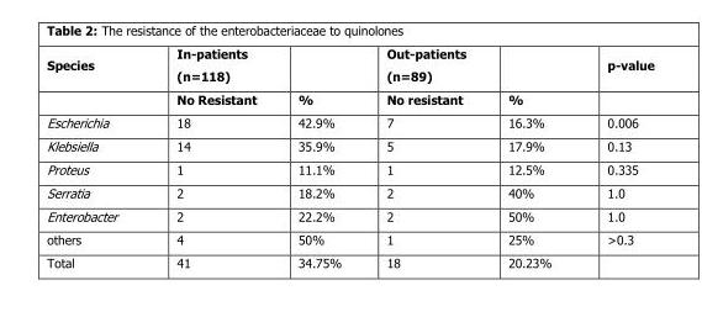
<table><thead><tr><td rowspan="2">Species</td><td rowspan="2">In-patients (n=118) No Resistant</td><td rowspan="2">%</td><td rowspan="2">Out-patients (n=89) No resistant</td><td rowspan="2">%</td><td rowspan="2">p-value</td></tr><tr></tr></thead><tbody><tr><td>Escherichia</td><td>18</td><td>42.9%</td><td>7</td><td>16.3%</td><td>0.006</td></tr><tr><td>Klebsiella</td><td>14</td><td>35.9%</td><td>5</td><td>17.9%</td><td>0.13</td></tr><tr><td>Proteus</td><td>1</td><td>11.1%</td><td>1</td><td>12.5%</td><td>0.335</td></tr><tr><td>Serratia</td><td>2</td><td>18.2%</td><td>2</td><td>40%</td><td>1.0</td></tr><tr><td>Enterobacter</td><td>2</td><td>22.2%</td><td>2</td><td>50%</td><td>1.0</td></tr><tr><td>others</td><td>4</td><td>50%</td><td>1</td><td>25%</td><td>&gt;0.3</td></tr><tr><td>Total</td><td>41</td><td>34.75%</td><td>18</td><td>20.23%</td><td></td></tr></tbody></table>